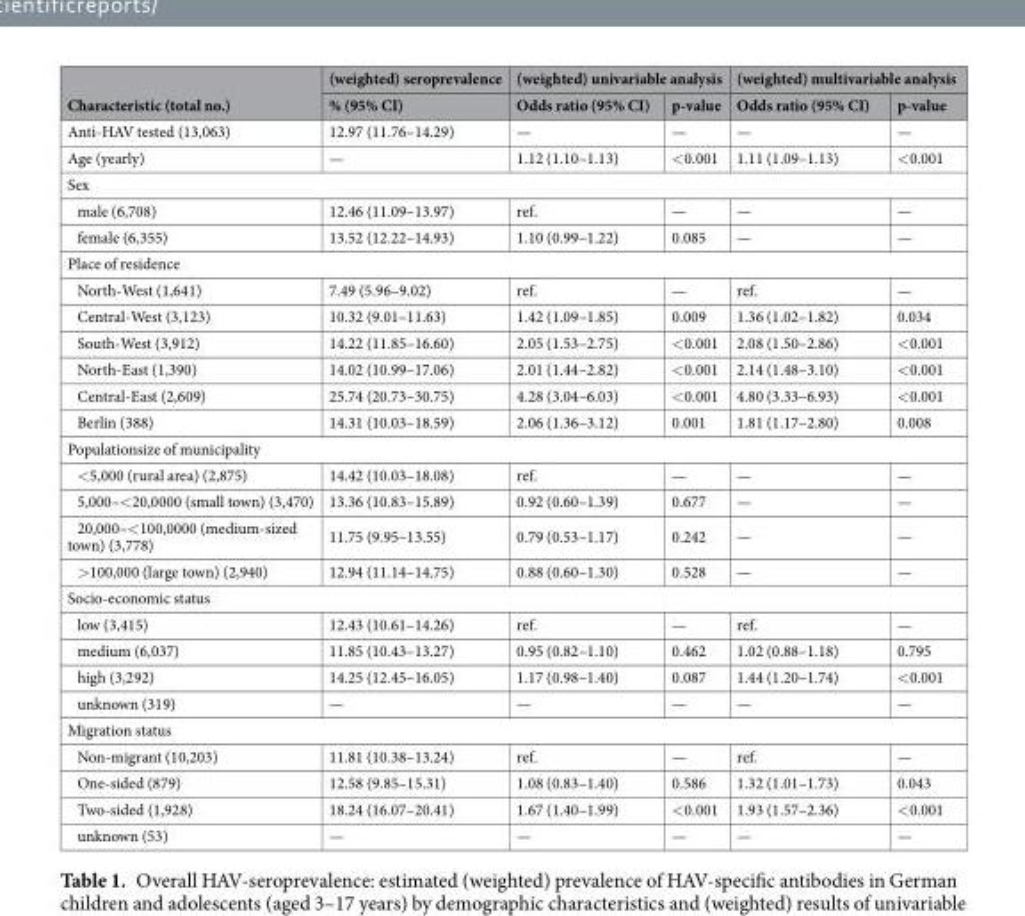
<table><thead><tr><td rowspan="2">Characteristic (total no.)</td><td rowspan="2">(weighted) seroprevalence % (95% CI)</td><td colspan="2">(weighted) univariable analysis</td><td colspan="2">(weighted) multivariable analysis</td></tr><tr><td>Odds ratio (95% CI)</td><td>p-value</td><td>Odds ratio (95% CI)</td><td>p-value</td></tr></thead><tbody><tr><td>Anti-HAV tested (13,063)</td><td>12.97 (11.76–14.29)</td><td>—</td><td>—</td><td>—</td><td>—</td></tr><tr><td>Age (yearly)</td><td>—</td><td>1.12 (1.10–1.13)</td><td>&lt;0.001</td><td>1.11 (1.09–1.13)</td><td>&lt;0.001</td></tr><tr><td colspan="6">Sex</td></tr><tr><td>male (6,708)</td><td>12.46 (11.09–13.97)</td><td>ref.</td><td>—</td><td>—</td><td>—</td></tr><tr><td>female (6,355)</td><td>13.52 (12.22–14.93)</td><td>1.10 (0.99–1.22)</td><td>0.085</td><td>—</td><td>—</td></tr><tr><td colspan="6">Place of residence</td></tr><tr><td>North-West (1,641)</td><td>7.49 (5.96–9.02)</td><td>ref.</td><td>—</td><td>ref.</td><td>—</td></tr><tr><td>Central-West (3,123)</td><td>10.32 (9.01–11.63)</td><td>1.42 (1.09–1.85)</td><td>0.009</td><td>1.36 (1.02–1.82)</td><td>0.034</td></tr><tr><td>South-West (3,912)</td><td>14.22 (11.85–16.60)</td><td>2.05 (1.53–2.75)</td><td>&lt;0.001</td><td>2.08 (1.50–2.86)</td><td>&lt;0.001</td></tr><tr><td>North-East (1,390)</td><td>14.02 (10.99–17.06)</td><td>2.01 (1.44–2.82)</td><td>&lt;0.001</td><td>2.14 (1.48–3.10)</td><td>&lt;0.001</td></tr><tr><td>Central-East (2,609)</td><td>25.74 (20.73–30.75)</td><td>4.28 (3.04–6.03)</td><td>&lt;0.001</td><td>4.80 (3.33–6.93)</td><td>&lt;0.001</td></tr><tr><td>Berlin (388)</td><td>14.31 (10.03–18.59)</td><td>2.06 (1.36–3.12)</td><td>0.001</td><td>1.81 (1.17–2.80)</td><td>0.008</td></tr><tr><td colspan="6">Populationsize of municipality</td></tr><tr><td>&lt;5,000 (rural area) (2,875)</td><td>14.42 (10.03–18.08)</td><td>ref.</td><td>—</td><td>—</td><td>—</td></tr><tr><td>5,000–&lt;20,0000 (small town) (3,470)</td><td>13.36 (10.83–15.89)</td><td>0.92 (0.60–1.39)</td><td>0.677</td><td>—</td><td>—</td></tr><tr><td>20,000–&lt;100,0000 (medium-sized town) (3,778)</td><td>11.75 (9.95–13.55)</td><td>0.79 (0.53–1.17)</td><td>0.242</td><td>—</td><td>—</td></tr><tr><td>&gt;100,000 (large town) (2,940)</td><td>12.94 (11.14–14.75)</td><td>0.88 (0.60–1.30)</td><td>0.528</td><td>—</td><td>—</td></tr><tr><td colspan="6">Socio-economic status</td></tr><tr><td>low (3,415)</td><td>12.43 (10.61–14.26)</td><td>ref.</td><td>—</td><td>ref.</td><td>—</td></tr><tr><td>medium (6,037)</td><td>11.85 (10.43–13.27)</td><td>0.95 (0.82–1.10)</td><td>0.462</td><td>1.02 (0.88–1.18)</td><td>0.795</td></tr><tr><td>high (3,292)</td><td>14.25 (12.45–16.05)</td><td>1.17 (0.98–1.40)</td><td>0.087</td><td>1.44 (1.20–1.74)</td><td>&lt;0.001</td></tr><tr><td>unknown (319)</td><td>—</td><td>—</td><td>—</td><td>—</td><td>—</td></tr><tr><td colspan="6">Migration status</td></tr><tr><td>Non-migrant (10,203)</td><td>11.81 (10.38–13.24)</td><td>ref.</td><td>—</td><td>ref.</td><td>—</td></tr><tr><td>One-sided (879)</td><td>12.58 (9.85–15.31)</td><td>1.08 (0.83–1.40)</td><td>0.586</td><td>1.32 (1.01–1.73)</td><td>0.043</td></tr><tr><td>Two-sided (1,928)</td><td>18.24 (16.07–20.41)</td><td>1.67 (1.40–1.99)</td><td>&lt;0.001</td><td>1.93 (1.57–2.36)</td><td>&lt;0.001</td></tr><tr><td>unknown (53)</td><td>—</td><td>—</td><td>—</td><td>—</td><td>—</td></tr></tbody></table>